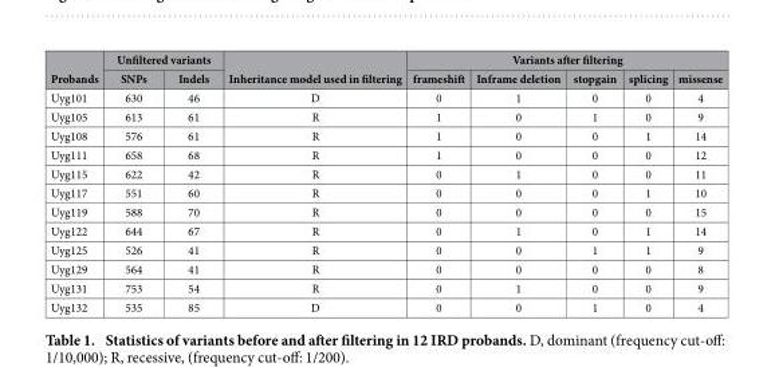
<table><thead><tr><td rowspan="2">Probands</td><td colspan="2">Unfiltered variants</td><td rowspan="2">Inheritance model used in filtering</td><td colspan="5">Variants after filtering</td></tr><tr><td>SNPs</td><td>Indels</td><td>frameshift</td><td>Inframe deletion</td><td>stopgain</td><td>splicing</td><td>missense</td></tr></thead><tbody><tr><td>Uyg101</td><td>630</td><td>46</td><td>D</td><td>0</td><td>1</td><td>0</td><td>0</td><td>4</td></tr><tr><td>Uyg105</td><td>613</td><td>61</td><td>R</td><td>1</td><td>0</td><td>1</td><td>0</td><td>9</td></tr><tr><td>Uyg108</td><td>576</td><td>61</td><td>R</td><td>1</td><td>0</td><td>0</td><td>1</td><td>14</td></tr><tr><td>Uyg111</td><td>658</td><td>68</td><td>R</td><td>1</td><td>0</td><td>0</td><td>0</td><td>12</td></tr><tr><td>Uyg115</td><td>622</td><td>42</td><td>R</td><td>0</td><td>1</td><td>0</td><td>0</td><td>11</td></tr><tr><td>Uyg117</td><td>551</td><td>60</td><td>R</td><td>0</td><td>0</td><td>0</td><td>1</td><td>10</td></tr><tr><td>Uyg119</td><td>588</td><td>70</td><td>R</td><td>0</td><td>0</td><td>0</td><td>0</td><td>15</td></tr><tr><td>Uyg122</td><td>644</td><td>67</td><td>R</td><td>0</td><td>1</td><td>0</td><td>1</td><td>14</td></tr><tr><td>Uyg125</td><td>526</td><td>41</td><td>R</td><td>0</td><td>0</td><td>1</td><td>1</td><td>9</td></tr><tr><td>Uyg129</td><td>564</td><td>41</td><td>R</td><td>0</td><td>0</td><td>0</td><td>0</td><td>8</td></tr><tr><td>Uyg131</td><td>753</td><td>54</td><td>R</td><td>0</td><td>1</td><td>0</td><td>0</td><td>9</td></tr><tr><td>Uyg132</td><td>535</td><td>85</td><td>D</td><td>0</td><td>0</td><td>1</td><td>0</td><td>4</td></tr></tbody></table>